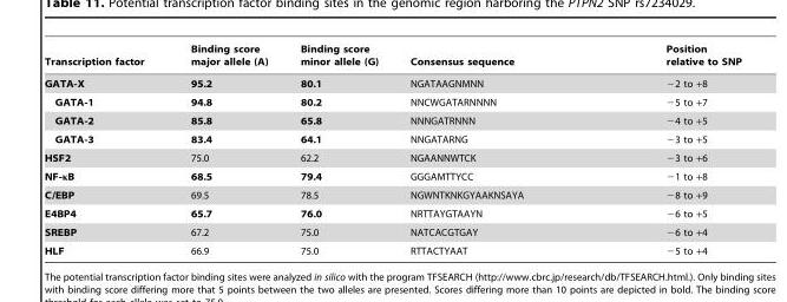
<table><thead><tr><td>Transcription factor</td><td>Binding score major allele (A)</td><td>Binding score minor allele (G)</td><td>Consensus sequence</td><td>Position relative to SNP</td></tr></thead><tbody><tr><td>GATA-X</td><td>95.2</td><td>80.1</td><td>NGATAAGNMNN</td><td>−2 to +8</td></tr><tr><td>GATA-1</td><td>94.8</td><td>80.2</td><td>NNCWGATARNNNN</td><td>−5 to +7</td></tr><tr><td>GATA-2</td><td>85.8</td><td>65.8</td><td>NNNGATRNNN</td><td>−4 to +5</td></tr><tr><td>GATA-3</td><td>83.4</td><td>64.1</td><td>NNGATARNG</td><td>−3 to +5</td></tr><tr><td>HSF2</td><td>75.0</td><td>62.2</td><td>NGAANNWTCK</td><td>−3 to +6</td></tr><tr><td>NF-κB</td><td>68.5</td><td>79.4</td><td>GGGAMTTYCC</td><td>−1 to +8</td></tr><tr><td>C/EBP</td><td>69.5</td><td>78.5</td><td>NGWNTKNKGYAAKNSAYA</td><td>−8 to +9</td></tr><tr><td>E4BP4</td><td>65.7</td><td>76.0</td><td>NRTTAYGTAAYN</td><td>−6 to +5</td></tr><tr><td>SREBP</td><td>67.2</td><td>75.0</td><td>NATCACGTGAY</td><td>−6 to +4</td></tr><tr><td>HLF</td><td>66.9</td><td>75.0</td><td>RTTACTYAAT</td><td>−5 to +4</td></tr></tbody></table>